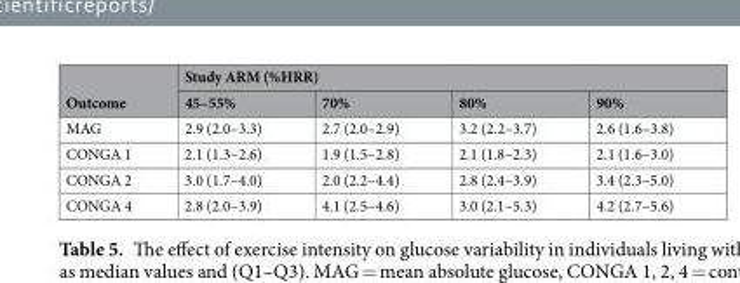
<table><thead><tr><td rowspan="2">Outcome</td><td colspan="4">Study ARM (%HRR)</td></tr><tr><td>45–55%</td><td>70%</td><td>80%</td><td>90%</td></tr></thead><tbody><tr><td>MAG</td><td>2.9 (2.0–3.3)</td><td>2.7 (2.0–2.9)</td><td>3.2 (2.2–3.7)</td><td>2.6 (1.6–3.8)</td></tr><tr><td>CONGA 1</td><td>2.1 (1.3–2.6)</td><td>1.9 (1.5–2.8)</td><td>2.1 (1.8–2.3)</td><td>2.1 (1.6–3.0)</td></tr><tr><td>CONGA 2</td><td>3.0 (1.7–4.0)</td><td>2.0 (2.2–4.4)</td><td>2.8 (2.4–3.9)</td><td>3.4 (2.3–5.0)</td></tr><tr><td>CONGA 4</td><td>2.8 (2.0–3.9)</td><td>4.1 (2.5–4.6)</td><td>3.0 (2.1–5.3)</td><td>4.2 (2.7–5.6)</td></tr></tbody></table>